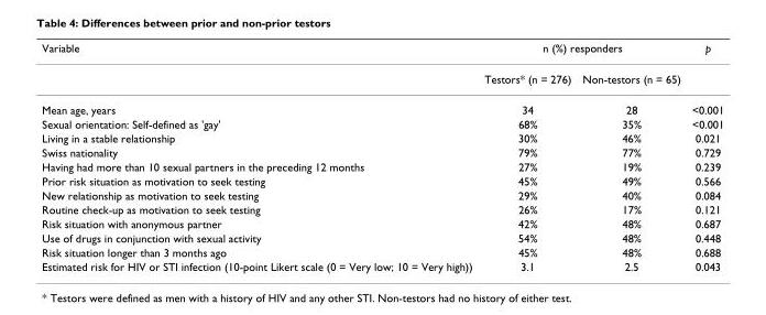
<table><thead><tr><td rowspan="2">Variable</td><td colspan="2">n (%) responders</td><td rowspan="2">p</td></tr><tr><td>Testors* (n = 276)</td><td>Non-testors (n = 65)</td></tr></thead><tbody><tr><td>Mean age, years</td><td>34</td><td>28</td><td>&lt;0.001</td></tr><tr><td>Sexual orientation: Self-defined as &#x27;gay&#x27;</td><td>68%</td><td>35%</td><td>&lt;0.001</td></tr><tr><td>Living in a stable relationship</td><td>30%</td><td>46%</td><td>0.021</td></tr><tr><td>Swiss nationality</td><td>79%</td><td>77%</td><td>0.729</td></tr><tr><td>Having had more than 10 sexual partners in the preceding 12 months</td><td>27%</td><td>19%</td><td>0.239</td></tr><tr><td>Prior risk situation as motivation to seek testing</td><td>45%</td><td>49%</td><td>0.566</td></tr><tr><td>New relationship as motivation to seek testing</td><td>29%</td><td>40%</td><td>0.084</td></tr><tr><td>Routine check-up as motivation to seek testing</td><td>26%</td><td>17%</td><td>0.121</td></tr><tr><td>Risk situation with anonymous partner</td><td>42%</td><td>48%</td><td>0.687</td></tr><tr><td>Use of drugs in conjunction with sexual activity</td><td>54%</td><td>48%</td><td>0.448</td></tr><tr><td>Risk situation longer than 3 months ago</td><td>45%</td><td>48%</td><td>0.688</td></tr><tr><td>Estimated risk for HIV or STI infection (10-point Likert scale (0 = Very low; 10 = Very high))</td><td>3.1</td><td>2.5</td><td>0.043</td></tr></tbody></table>